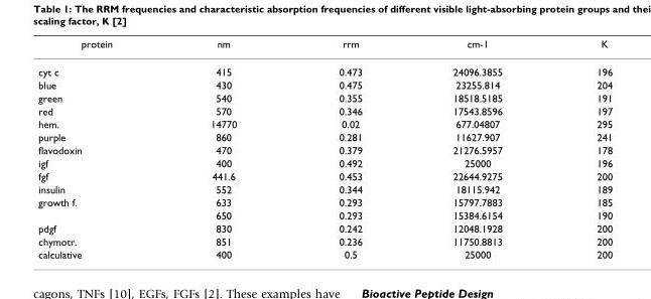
<table><thead><tr><td>protein</td><td>nm</td><td>rrm</td><td>cm-1</td><td>K</td></tr></thead><tbody><tr><td>cyt c</td><td>415</td><td>0.473</td><td>24096.3855</td><td>196</td></tr><tr><td>blue</td><td>430</td><td>0.475</td><td>23255.814</td><td>204</td></tr><tr><td>green</td><td>540</td><td>0.355</td><td>18518.5185</td><td>191</td></tr><tr><td>red</td><td>570</td><td>0.346</td><td>17543.8596</td><td>197</td></tr><tr><td>hem.</td><td>14770</td><td>0.02</td><td>677.04807</td><td>295</td></tr><tr><td>purple</td><td>860</td><td>0.281</td><td>11627.907</td><td>241</td></tr><tr><td>flavodoxin</td><td>470</td><td>0.379</td><td>21276.5957</td><td>178</td></tr><tr><td>igf</td><td>400</td><td>0.492</td><td>25000</td><td>196</td></tr><tr><td>fgf</td><td>441.6</td><td>0.453</td><td>22644.9275</td><td>200</td></tr><tr><td>insulin</td><td>552</td><td>0.344</td><td>18115.942</td><td>189</td></tr><tr><td rowspan="2">growth f.</td><td>633</td><td>0.293</td><td>15797.7883</td><td>185</td></tr><tr><td>650</td><td>0.293</td><td>15384.6154</td><td>190</td></tr><tr><td>pdgf</td><td>830</td><td>0.242</td><td>12048.1928</td><td>200</td></tr><tr><td>chymotr.</td><td>851</td><td>0.236</td><td>11750.8813</td><td>200</td></tr><tr><td>calculative</td><td>400</td><td>0.5</td><td>25000</td><td>200</td></tr></tbody></table>